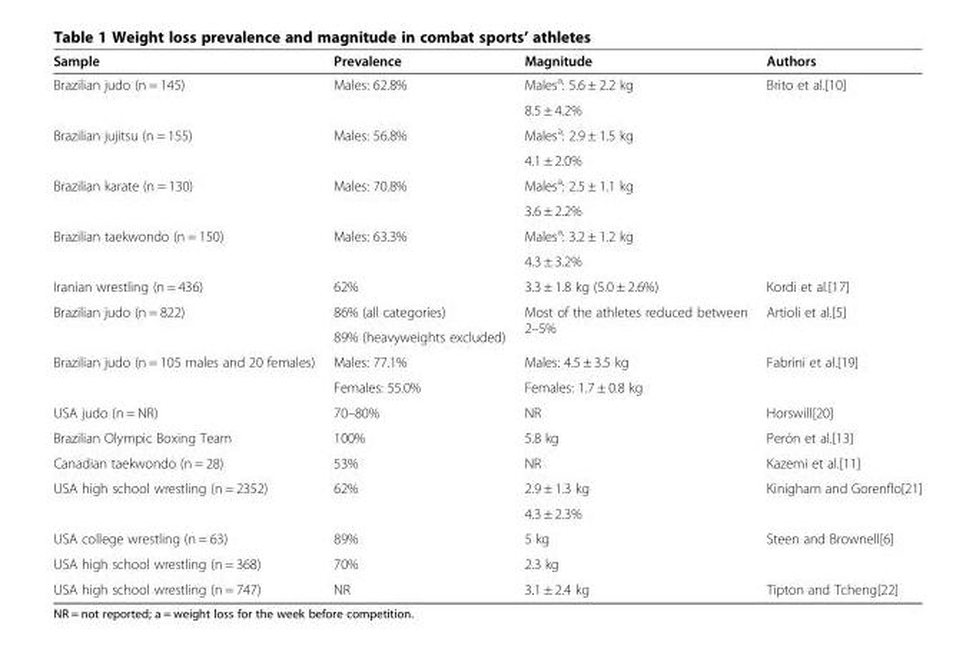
<table><thead><tr><td>Sample</td><td>Prevalence</td><td>Magnitude</td><td>Authors</td></tr></thead><tbody><tr><td rowspan="2">Brazilian judo (n = 145)</td><td rowspan="2">Males: 62.8%</td><td>Males<sup>a</sup>: 5.6 ± 2.2 kg</td><td rowspan="8">Brito et al.[10]</td></tr><tr><td>8.5 ± 4.2%</td></tr><tr><td rowspan="2">Brazilian jujitsu (n = 155)</td><td rowspan="2">Males: 56.8%</td><td>Males<sup>a</sup>: 2.9 ± 1.5 kg</td></tr><tr><td>4.1 ± 2.0%</td></tr><tr><td rowspan="2">Brazilian karate (n = 130)</td><td rowspan="2">Males: 70.8%</td><td>Males<sup>a</sup>: 2.5 ± 1.1 kg</td></tr><tr><td>3.6 ± 2.2%</td></tr><tr><td rowspan="2">Brazilian taekwondo (n = 150)</td><td rowspan="2">Males: 63.3%</td><td>Males<sup>a</sup>: 3.2 ± 1.2 kg</td></tr><tr><td>4.3 ± 3.2%</td></tr><tr><td>Iranian wrestling (n = 436)</td><td>62%</td><td>3.3 ± 1.8 kg (5.0 ± 2.6%)</td><td>Kordi et al.[17]</td></tr><tr><td rowspan="2">Brazilian judo (n = 822)</td><td>86% (all categories)</td><td rowspan="2">Most of the athletes reduced between 2–5%</td><td rowspan="2">Artioli et al.[5]</td></tr><tr><td>89% (heavyweights excluded)</td></tr><tr><td rowspan="2">Brazilian judo (n = 105 males and 20 females)</td><td>Males: 77.1%</td><td>Males: 4.5 ± 3.5 kg</td><td rowspan="2">Fabrini et al.[19]</td></tr><tr><td>Females: 55.0%</td><td>Females: 1.7 ± 0.8 kg</td></tr><tr><td>USA judo (n = NR)</td><td>70–80%</td><td>NR</td><td>Horswill[20]</td></tr><tr><td>Brazilian Olympic Boxing Team</td><td>100%</td><td>5.8 kg</td><td>Perón et al.[13]</td></tr><tr><td>Canadian taekwondo (n = 28)</td><td>53%</td><td>NR</td><td>Kazemi et al.[11]</td></tr><tr><td rowspan="2">USA high school wrestling (n = 2352)</td><td rowspan="2">62%</td><td>2.9 ± 1.3 kg</td><td rowspan="2">Kinigham and Gorenflo[21]</td></tr><tr><td>4.3 ± 2.3%</td></tr><tr><td>USA college wrestling (n = 63)</td><td>89%</td><td>5 kg</td><td>Steen and Brownell[6]</td></tr><tr><td>USA high school wrestling (n = 368)</td><td>70%</td><td>2.3 kg</td><td></td></tr><tr><td>USA high school wrestling (n = 747)</td><td>NR</td><td>3.1 ± 2.4 kg</td><td>Tipton and Tcheng[22]</td></tr></tbody></table>